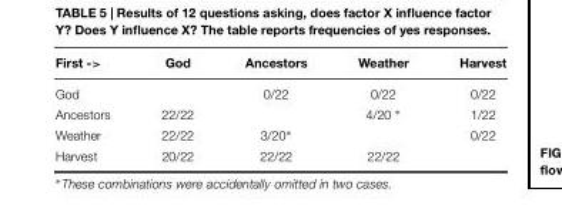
<table><thead><tr><td>First -&gt;</td><td>God</td><td>Ancestors</td><td>Weather</td><td>Harvest</td></tr></thead><tbody><tr><td>God</td><td></td><td>0/22</td><td>0/22</td><td>0/22</td></tr><tr><td>Ancestors</td><td>22/22</td><td></td><td>4/20 ∗</td><td>1/22</td></tr><tr><td>Weather</td><td>22/22</td><td>3/20∗</td><td></td><td>0/22</td></tr><tr><td>Harvest</td><td>20/22</td><td>22/22</td><td>22/22</td><td></td></tr></tbody></table>